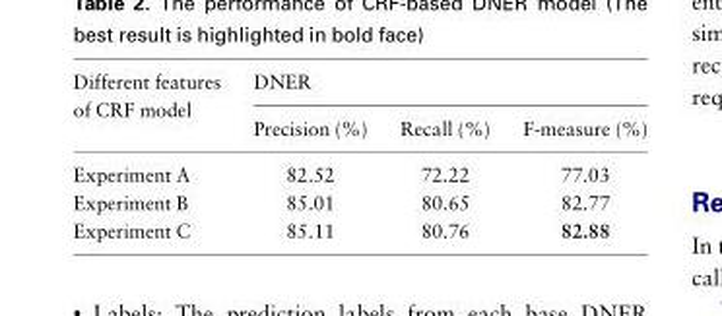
<table><thead><tr><td rowspan="2">Different features of CRF model</td><td colspan="3">DNER</td></tr><tr><td>Precision (%)</td><td>Recall (%)</td><td>F-measure (%)</td></tr></thead><tbody><tr><td>Experiment A</td><td>82.52</td><td>72.22</td><td>77.03</td></tr><tr><td>Experiment B</td><td>85.01</td><td>80.65</td><td>82.77</td></tr><tr><td>Experiment C</td><td>85.11</td><td>80.76</td><td>82.88</td></tr></tbody></table>